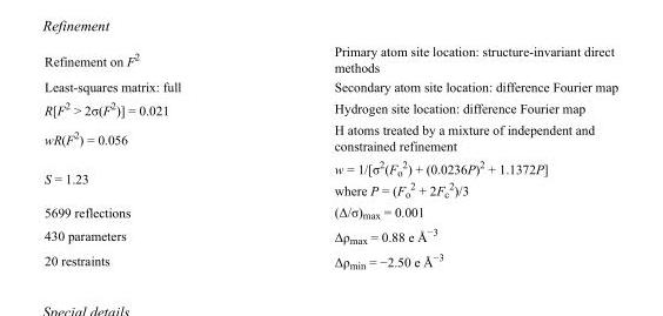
<table><tbody><tr><td>Refinement on F<sup>2</sup></td><td>Primary atom site location: structure-invariant direct methods</td></tr><tr><td>Least-squares matrix: full</td><td>Secondary atom site location: difference Fourier map</td></tr><tr><td>R[F<sup>2</sup> &gt; 2σ(F<sup>2</sup>)] = 0.021</td><td>Hydrogen site location: difference Fourier map</td></tr><tr><td>wR(F<sup>2</sup>) = 0.056</td><td>H atoms treated by a mixture of independent and constrained refinement</td></tr><tr><td>S = 1.23</td><td>w = 1/[σ<sup>2</sup>(F<sub>o</sub> <sup>2</sup>) + (0.0236P)<sup>2</sup> + 1.1372P] where P = (F<sub>o</sub> <sup>2</sup> + 2F<sub>c</sub> <sup>2</sup>)/3</td></tr><tr><td>5699 reflections</td><td>(Δ/σ)<sub>max</sub> = 0.001</td></tr><tr><td>430 parameters</td><td>Δρ<sub>max</sub> = 0.88 e Å<sup>−3</sup></td></tr><tr><td>20 restraints</td><td>Δρ<sub>min</sub> = −2.50 e Å<sup>−3</sup></td></tr></tbody></table>